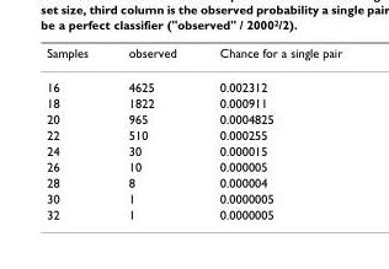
<table><thead><tr><td>Samples</td><td>observed</td><td>Chance for a single pair</td></tr></thead><tbody><tr><td>16</td><td>4625</td><td>0.002312</td></tr><tr><td>18</td><td>1822</td><td>0.000911</td></tr><tr><td>20</td><td>965</td><td>0.0004825</td></tr><tr><td>22</td><td>510</td><td>0.000255</td></tr><tr><td>24</td><td>30</td><td>0.000015</td></tr><tr><td>26</td><td>10</td><td>0.000005</td></tr><tr><td>28</td><td>8</td><td>0.000004</td></tr><tr><td>30</td><td>1</td><td>0.0000005</td></tr><tr><td>32</td><td>1</td><td>0.0000005</td></tr></tbody></table>